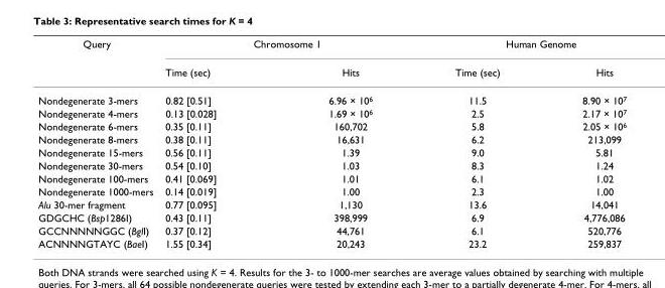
<table><thead><tr><td rowspan="2">Query</td><td colspan="2">Chromosome 1</td><td colspan="2">Human Genome</td></tr><tr><td>Time (sec)</td><td>Hits</td><td>Time (sec)</td><td>Hits</td></tr></thead><tbody><tr><td>Nondegenerate 3-mers</td><td>0.82 [0.51]</td><td>6.96 × 10<sup>6</sup></td><td>11.5</td><td>8.90 × 10<sup>7</sup></td></tr><tr><td>Nondegenerate 4-mers</td><td>0.13 [0.028]</td><td>1.69 × 10<sup>6</sup></td><td>2.5</td><td>2.17 × 10<sup>7</sup></td></tr><tr><td>Nondegenerate 6-mers</td><td>0.35 [0.11]</td><td>160,702</td><td>5.8</td><td>2.05 × 10<sup>6</sup></td></tr><tr><td>Nondegenerate 8-mers</td><td>0.38 [0.11]</td><td>16,631</td><td>6.2</td><td>213,099</td></tr><tr><td>Nondegenerate 15-mers</td><td>0.56 [0.11]</td><td>1.39</td><td>9.0</td><td>5.81</td></tr><tr><td>Nondegenerate 30-mers</td><td>0.54 [0.10]</td><td>1.03</td><td>8.3</td><td>1.24</td></tr><tr><td>Nondegenerate 100-mers</td><td>0.41 [0.069]</td><td>1.01</td><td>6.1</td><td>1.02</td></tr><tr><td>Nondegenerate 1000-mers</td><td>0.14 [0.019]</td><td>1.00</td><td>2.3</td><td>1.00</td></tr><tr><td>Alu 30-mer fragment</td><td>0.77 [0.095]</td><td>1,130</td><td>13.6</td><td>14,041</td></tr><tr><td>GDGCHC (Bsp1286I)</td><td>0.43 [0.11]</td><td>398,999</td><td>6.9</td><td>4,776,086</td></tr><tr><td>GCCNNNNNGGC (BglI)</td><td>0.37 [0.12]</td><td>44,761</td><td>6.1</td><td>520,776</td></tr><tr><td>ACNNNNGTAYC (BaeI)</td><td>1.55 [0.34]</td><td>20,243</td><td>23.2</td><td>259,837</td></tr></tbody></table>